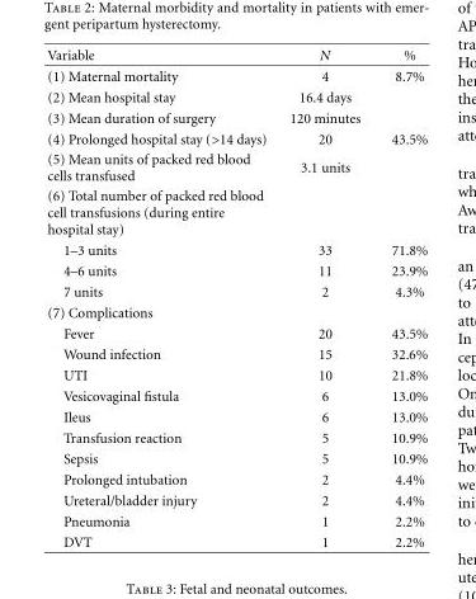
<table><thead><tr><td>Variable</td><td>N</td><td>%</td></tr></thead><tbody><tr><td>(1) Maternal mortality</td><td>4</td><td>8.7%</td></tr><tr><td>(2) Mean hospital stay</td><td>16.4 days</td><td></td></tr><tr><td>(3) Mean duration of surgery</td><td>120 minutes</td><td></td></tr><tr><td>(4) Prolonged hospital stay (&gt;14 days)</td><td>20</td><td>43.5%</td></tr><tr><td>(5) Mean units of packed red blood cells transfused</td><td>3.1 units</td><td></td></tr><tr><td colspan="3">(6) Total number of packed red blood cell transfusions (during entire hospital stay)</td></tr><tr><td>1–3 units</td><td>33</td><td>71.8%</td></tr><tr><td>4–6 units</td><td>11</td><td>23.9%</td></tr><tr><td>7 units</td><td>2</td><td>4.3%</td></tr><tr><td colspan="3">(7) Complications</td></tr><tr><td>Fever</td><td>20</td><td>43.5%</td></tr><tr><td>Wound infection</td><td>15</td><td>32.6%</td></tr><tr><td>UTI</td><td>10</td><td>21.8%</td></tr><tr><td>Vesicovaginal fistula</td><td>6</td><td>13.0%</td></tr><tr><td>Ileus</td><td>6</td><td>13.0%</td></tr><tr><td>Transfusion reaction</td><td>5</td><td>10.9%</td></tr><tr><td>Sepsis</td><td>5</td><td>10.9%</td></tr><tr><td>Prolonged intubation</td><td>2</td><td>4.4%</td></tr><tr><td>Ureteral/bladder injury</td><td>2</td><td>4.4%</td></tr><tr><td>Pneumonia</td><td>1</td><td>2.2%</td></tr><tr><td>DVT</td><td>1</td><td>2.2%</td></tr></tbody></table>